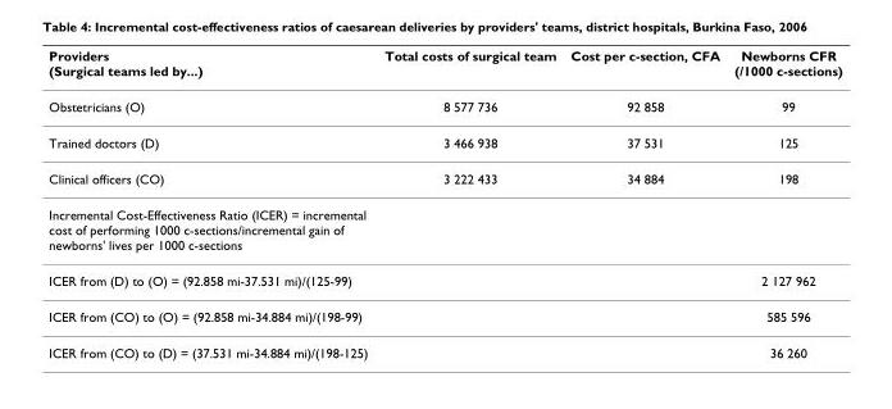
<table><thead><tr><td>Providers (Surgical teams led by...)</td><td>Total costs of surgical team</td><td>Cost per c-section, CFA</td><td>Newborns CFR (/1000 c-sections)</td></tr></thead><tbody><tr><td>Obstetricians (O)</td><td>8 577 736</td><td>92 858</td><td>99</td></tr><tr><td>Trained doctors (D)</td><td>3 466 938</td><td>37 531</td><td>125</td></tr><tr><td>Clinical officers (CO)</td><td>3 222 433</td><td>34 884</td><td>198</td></tr><tr><td colspan="4">Incremental Cost-Effectiveness Ratio (ICER) = incremental cost of performing 1000 c-sections/incremental gain of newborns&#x27; lives per 1000 c-sections</td></tr><tr><td>ICER from (D) to (O) = (92.858 mi-37.531 mi)/(125-99)</td><td></td><td></td><td>2 127 962</td></tr><tr><td>ICER from (CO) to (O) = (92.858 mi-34.884 mi)/(198-99)</td><td></td><td></td><td>585 596</td></tr><tr><td>ICER from (CO) to (D) = (37.531 mi-34.884 mi)/(198-125)</td><td></td><td></td><td>36 260</td></tr></tbody></table>